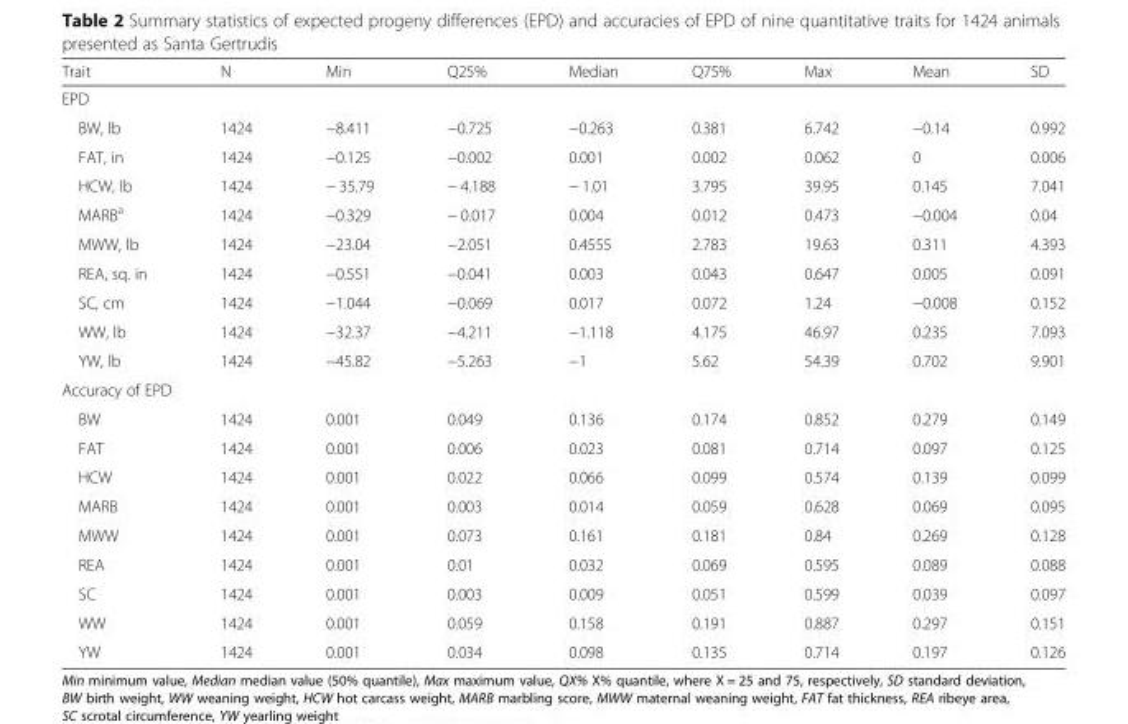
<table><thead><tr><td>Trait</td><td>N</td><td>Min</td><td>Q25%</td><td>Median</td><td>Q75%</td><td>Max</td><td>Mean</td><td>SD</td></tr></thead><tbody><tr><td colspan="9">EPD</td></tr><tr><td>BW, lb</td><td>1424</td><td>−8.411</td><td>−0.725</td><td>−0.263</td><td>0.381</td><td>6.742</td><td>−0.14</td><td>0.992</td></tr><tr><td>FAT, in</td><td>1424</td><td>−0.125</td><td>−0.002</td><td>0.001</td><td>0.002</td><td>0.062</td><td>0</td><td>0.006</td></tr><tr><td>HCW, lb</td><td>1424</td><td>− 35.79</td><td>− 4.188</td><td>− 1.01</td><td>3.795</td><td>39.95</td><td>0.145</td><td>7.041</td></tr><tr><td>MARB<sup>a</sup></td><td>1424</td><td>−0.329</td><td>− 0.017</td><td>0.004</td><td>0.012</td><td>0.473</td><td>−0.004</td><td>0.04</td></tr><tr><td>MWW, lb</td><td>1424</td><td>−23.04</td><td>−2.051</td><td>0.4555</td><td>2.783</td><td>19.63</td><td>0.311</td><td>4.393</td></tr><tr><td>REA, sq. in</td><td>1424</td><td>−0.551</td><td>−0.041</td><td>0.003</td><td>0.043</td><td>0.647</td><td>0.005</td><td>0.091</td></tr><tr><td>SC, cm</td><td>1424</td><td>−1.044</td><td>−0.069</td><td>0.017</td><td>0.072</td><td>1.24</td><td>−0.008</td><td>0.152</td></tr><tr><td>WW, lb</td><td>1424</td><td>−32.37</td><td>−4.211</td><td>−1.118</td><td>4.175</td><td>46.97</td><td>0.235</td><td>7.093</td></tr><tr><td>YW, lb</td><td>1424</td><td>−45.82</td><td>−5.263</td><td>−1</td><td>5.62</td><td>54.39</td><td>0.702</td><td>9.901</td></tr><tr><td colspan="9">Accuracy of EPD</td></tr><tr><td>BW</td><td>1424</td><td>0.001</td><td>0.049</td><td>0.136</td><td>0.174</td><td>0.852</td><td>0.279</td><td>0.149</td></tr><tr><td>FAT</td><td>1424</td><td>0.001</td><td>0.006</td><td>0.023</td><td>0.081</td><td>0.714</td><td>0.097</td><td>0.125</td></tr><tr><td>HCW</td><td>1424</td><td>0.001</td><td>0.022</td><td>0.066</td><td>0.099</td><td>0.574</td><td>0.139</td><td>0.099</td></tr><tr><td>MARB</td><td>1424</td><td>0.001</td><td>0.003</td><td>0.014</td><td>0.059</td><td>0.628</td><td>0.069</td><td>0.095</td></tr><tr><td>MWW</td><td>1424</td><td>0.001</td><td>0.073</td><td>0.161</td><td>0.181</td><td>0.84</td><td>0.269</td><td>0.128</td></tr><tr><td>REA</td><td>1424</td><td>0.001</td><td>0.01</td><td>0.032</td><td>0.069</td><td>0.595</td><td>0.089</td><td>0.088</td></tr><tr><td>SC</td><td>1424</td><td>0.001</td><td>0.003</td><td>0.009</td><td>0.051</td><td>0.599</td><td>0.039</td><td>0.097</td></tr><tr><td>WW</td><td>1424</td><td>0.001</td><td>0.059</td><td>0.158</td><td>0.191</td><td>0.887</td><td>0.297</td><td>0.151</td></tr><tr><td>YW</td><td>1424</td><td>0.001</td><td>0.034</td><td>0.098</td><td>0.135</td><td>0.714</td><td>0.197</td><td>0.126</td></tr></tbody></table>